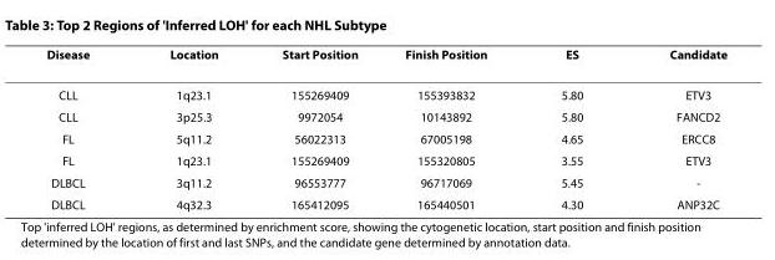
<table><thead><tr><td>Disease</td><td>Location</td><td>Start Position</td><td>Finish Position</td><td>ES</td><td>Candidate</td></tr></thead><tbody><tr><td>CLL</td><td>1q23.1</td><td>155269409</td><td>155393832</td><td>5.80</td><td>ETV3</td></tr><tr><td>CLL</td><td>3p25.3</td><td>9972054</td><td>10143892</td><td>5.80</td><td>FANCD2</td></tr><tr><td>FL</td><td>5q11.2</td><td>56022313</td><td>67005198</td><td>4.65</td><td>ERCC8</td></tr><tr><td>FL</td><td>1q23.1</td><td>155269409</td><td>155320805</td><td>3.55</td><td>ETV3</td></tr><tr><td>DLBCL</td><td>3q11.2</td><td>96553777</td><td>96717069</td><td>5.45</td><td>-</td></tr><tr><td>DLBCL</td><td>4q32.3</td><td>165412095</td><td>165440501</td><td>4.30</td><td>ANP32C</td></tr></tbody></table>